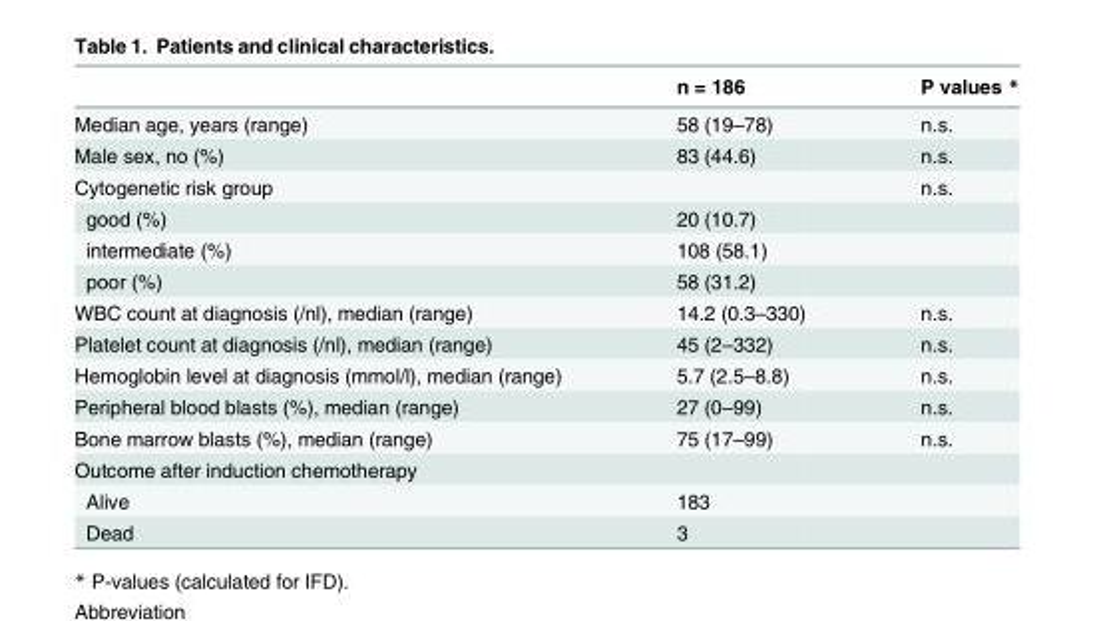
<table><thead><tr><td></td><td>n = 186</td><td>P values *</td></tr></thead><tbody><tr><td>Median age, years (range)</td><td>58 (19–78)</td><td>n.s.</td></tr><tr><td>Male sex, no (%)</td><td>83 (44.6)</td><td>n.s.</td></tr><tr><td>Cytogenetic risk group</td><td></td><td>n.s.</td></tr><tr><td>good (%)</td><td>20 (10.7)</td><td></td></tr><tr><td>intermediate (%)</td><td>108 (58.1)</td><td></td></tr><tr><td>poor (%)</td><td>58 (31.2)</td><td></td></tr><tr><td>WBC count at diagnosis (/nl), median (range)</td><td>14.2 (0.3–330)</td><td>n.s.</td></tr><tr><td>Platelet count at diagnosis (/nl), median (range)</td><td>45 (2–332)</td><td>n.s.</td></tr><tr><td>Hemoglobin level at diagnosis (mmol/l), median (range)</td><td>5.7 (2.5–8.8)</td><td>n.s.</td></tr><tr><td>Peripheral blood blasts (%), median (range)</td><td>27 (0–99)</td><td>n.s.</td></tr><tr><td>Bone marrow blasts (%), median (range)</td><td>75 (17–99)</td><td>n.s.</td></tr><tr><td colspan="3">Outcome after induction chemotherapy</td></tr><tr><td>Alive</td><td>183</td><td></td></tr><tr><td>Dead</td><td>3</td><td></td></tr></tbody></table>